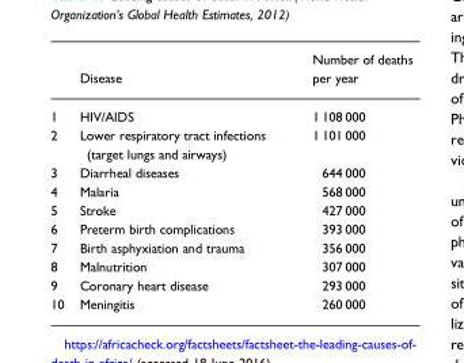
<table><thead><tr><td></td><td>Disease</td><td>Number of deaths per year</td></tr></thead><tbody><tr><td>1</td><td>HIV/AIDS</td><td>1 108 000</td></tr><tr><td>2</td><td>Lower respiratory tract infections (target lungs and airways)</td><td>1 101 000</td></tr><tr><td>3</td><td>Diarrheal diseases</td><td>644 000</td></tr><tr><td>4</td><td>Malaria</td><td>568 000</td></tr><tr><td>5</td><td>Stroke</td><td>427 000</td></tr><tr><td>6</td><td>Preterm birth complications</td><td>393 000</td></tr><tr><td>7</td><td>Birth asphyxiation and trauma</td><td>356 000</td></tr><tr><td>8</td><td>Malnutrition</td><td>307 000</td></tr><tr><td>9</td><td>Coronary heart disease</td><td>293 000</td></tr><tr><td>10</td><td>Meningitis</td><td>260 000</td></tr></tbody></table>